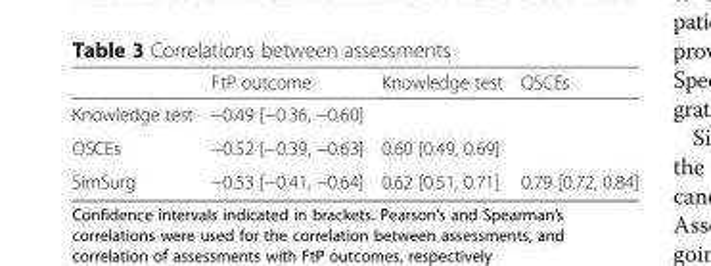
<table><thead><tr><td></td><td>FtP outcome</td><td>Knowledge test</td><td>OSCEs</td></tr></thead><tbody><tr><td>Knowledge test</td><td>−0.49 [−0.36, −0.60]</td><td></td><td></td></tr><tr><td>OSCEs</td><td>−0.52 [−0.39, −0.63]</td><td>0.60 [0.49, 0.69]</td><td></td></tr><tr><td>SimSurg</td><td>−0.53 [−0.41, −0.64]</td><td>0.62 [0.51, 0.71]</td><td>0.79 [0.72, 0.84]</td></tr></tbody></table>